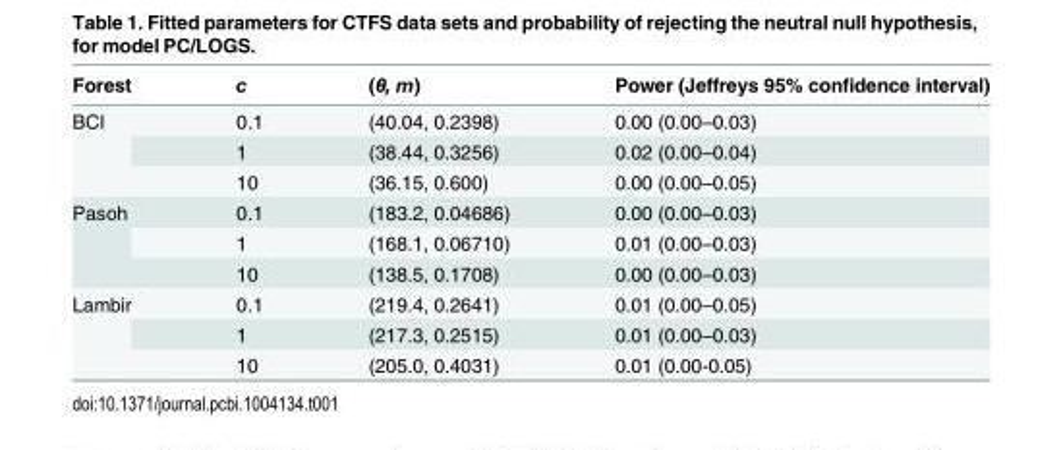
<table><thead><tr><td>Forest</td><td>c</td><td>(θ, m)</td><td>Power (Jeffreys 95% confidence interval)</td></tr></thead><tbody><tr><td rowspan="3">BCI</td><td>0.1</td><td>(40.04, 0.2398)</td><td>0.00 (0.00–0.03)</td></tr><tr><td>1</td><td>(38.44, 0.3256)</td><td>0.02 (0.00–0.04)</td></tr><tr><td>10</td><td>(36.15, 0.600)</td><td>0.00 (0.00–0.05)</td></tr><tr><td rowspan="3">Pasoh</td><td>0.1</td><td>(183.2, 0.04686)</td><td>0.00 (0.00–0.03)</td></tr><tr><td>1</td><td>(168.1, 0.06710)</td><td>0.01 (0.00–0.03)</td></tr><tr><td>10</td><td>(138.5, 0.1708)</td><td>0.00 (0.00–0.03)</td></tr><tr><td rowspan="3">Lambir</td><td>0.1</td><td>(219.4, 0.2641)</td><td>0.01 (0.00–0.05)</td></tr><tr><td>1</td><td>(217.3, 0.2515)</td><td>0.01 (0.00–0.03)</td></tr><tr><td>10</td><td>(205.0, 0.4031)</td><td>0.01 (0.00-0.05)</td></tr></tbody></table>